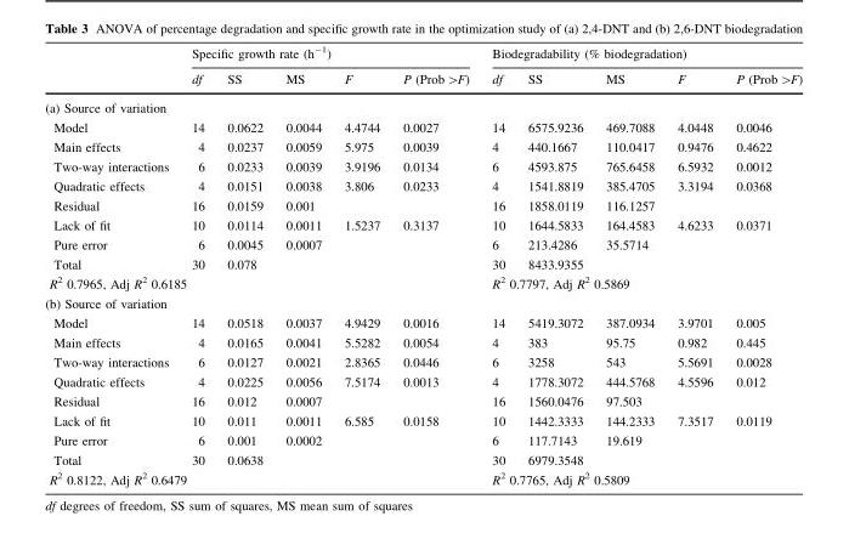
<table><thead><tr><td rowspan="2"></td><td colspan="5">Specific growth rate (h<sup>-1</sup>)</td><td colspan="5">Biodegradability (% biodegradation)</td></tr><tr><td>df</td><td>SS</td><td>MS</td><td>F</td><td>P (Prob &gt;F)</td><td>df</td><td>SS</td><td>MS</td><td>F</td><td>P (Prob &gt;F)</td></tr></thead><tbody><tr><td colspan="11">(a) Source of variation</td></tr><tr><td>Model</td><td>14</td><td>0.0622</td><td>0.0044</td><td>4.4744</td><td>0.0027</td><td>14</td><td>6575.9236</td><td>469.7088</td><td>4.0448</td><td>0.0046</td></tr><tr><td>Main effects</td><td>4</td><td>0.0237</td><td>0.0059</td><td>5.975</td><td>0.0039</td><td>4</td><td>440.1667</td><td>110.0417</td><td>0.9476</td><td>0.4622</td></tr><tr><td>Two-way interactions</td><td>6</td><td>0.0233</td><td>0.0039</td><td>3.9196</td><td>0.0134</td><td>6</td><td>4593.875</td><td>765.6458</td><td>6.5932</td><td>0.0012</td></tr><tr><td>Quadratic effects</td><td>4</td><td>0.0151</td><td>0.0038</td><td>3.806</td><td>0.0233</td><td>4</td><td>1541.8819</td><td>385.4705</td><td>3.3194</td><td>0.0368</td></tr><tr><td>Residual</td><td>16</td><td>0.0159</td><td>0.001</td><td></td><td></td><td>16</td><td>1858.0119</td><td>116.1257</td><td></td><td></td></tr><tr><td>Lack of fit</td><td>10</td><td>0.0114</td><td>0.0011</td><td>1.5237</td><td>0.3137</td><td>10</td><td>1644.5833</td><td>164.4583</td><td>4.6233</td><td>0.0371</td></tr><tr><td>Pure error</td><td>6</td><td>0.0045</td><td>0.0007</td><td></td><td></td><td>6</td><td>213.4286</td><td>35.5714</td><td></td><td></td></tr><tr><td>Total</td><td>30</td><td>0.078</td><td></td><td></td><td></td><td>30</td><td>8433.9355</td><td></td><td></td><td></td></tr><tr><td colspan="6">R<sup>2</sup> 0.7965, Adj R<sup>2</sup> 0.6185</td><td colspan="5">R<sup>2</sup> 0.7797, Adj R<sup>2</sup> 0.5869</td></tr><tr><td colspan="11">(b) Source of variation</td></tr><tr><td>Model</td><td>14</td><td>0.0518</td><td>0.0037</td><td>4.9429</td><td>0.0016</td><td>14</td><td>5419.3072</td><td>387.0934</td><td>3.9701</td><td>0.005</td></tr><tr><td>Main effects</td><td>4</td><td>0.0165</td><td>0.0041</td><td>5.5282</td><td>0.0054</td><td>4</td><td>383</td><td>95.75</td><td>0.982</td><td>0.445</td></tr><tr><td>Two-way interactions</td><td>6</td><td>0.0127</td><td>0.0021</td><td>2.8365</td><td>0.0446</td><td>6</td><td>3258</td><td>543</td><td>5.5691</td><td>0.0028</td></tr><tr><td>Quadratic effects</td><td>4</td><td>0.0225</td><td>0.0056</td><td>7.5174</td><td>0.0013</td><td>4</td><td>1778.3072</td><td>444.5768</td><td>4.5596</td><td>0.012</td></tr><tr><td>Residual</td><td>16</td><td>0.012</td><td>0.0007</td><td></td><td></td><td>16</td><td>1560.0476</td><td>97.503</td><td></td><td></td></tr><tr><td>Lack of fit</td><td>10</td><td>0.011</td><td>0.0011</td><td>6.585</td><td>0.0158</td><td>10</td><td>1442.3333</td><td>144.2333</td><td>7.3517</td><td>0.0119</td></tr><tr><td>Pure error</td><td>6</td><td>0.001</td><td>0.0002</td><td></td><td></td><td>6</td><td>117.7143</td><td>19.619</td><td></td><td></td></tr><tr><td>Total</td><td>30</td><td>0.0638</td><td></td><td></td><td></td><td>30</td><td>6979.3548</td><td></td><td></td><td></td></tr><tr><td colspan="6">R<sup>2</sup> 0.8122, Adj R<sup>2</sup> 0.6479</td><td colspan="5">R<sup>2</sup> 0.7765, Adj R<sup>2</sup> 0.5809</td></tr></tbody></table>